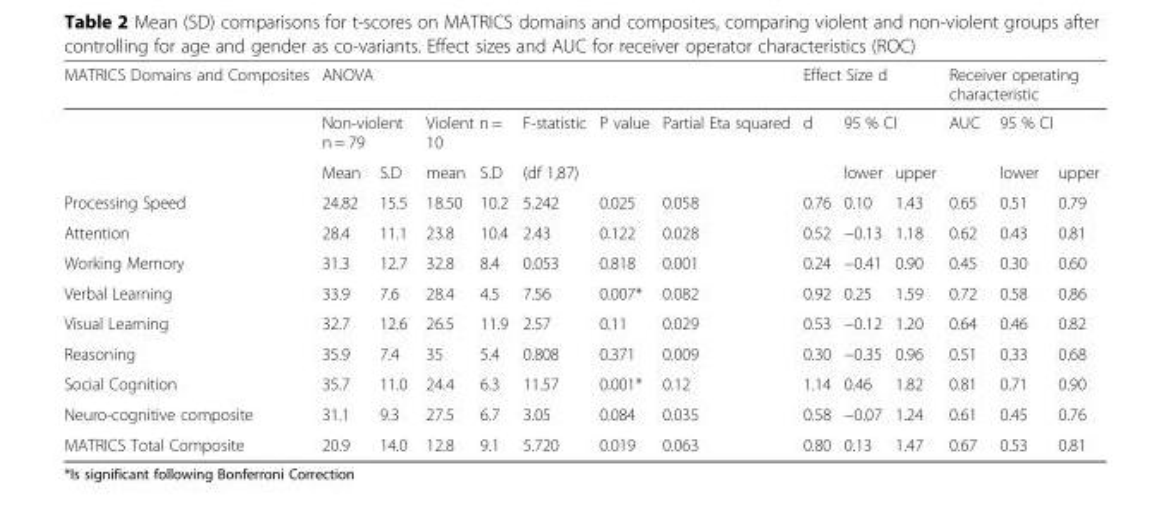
<table><thead><tr><td rowspan="3">MATRICS Domains and Composites</td><td colspan="7">ANOVA</td><td colspan="3">Effect Size d</td><td colspan="3">Receiver operating characteristic</td></tr><tr><td colspan="2">Non-violent n = 79</td><td colspan="2">Violent n = 10</td><td rowspan="2">F-statistic (df 1,87)</td><td rowspan="2">P value</td><td rowspan="2">Partial Eta squared</td><td rowspan="2">d</td><td colspan="2">95 % CI</td><td rowspan="2">AUC</td><td colspan="2">95 % CI</td></tr><tr><td>Mean</td><td>S.D</td><td>mean</td><td>S.D</td><td>lower</td><td>upper</td><td>lower</td><td>upper</td></tr></thead><tbody><tr><td>Processing Speed</td><td>24.82</td><td>15.5</td><td>18.50</td><td>10.2</td><td>5.242</td><td>0.025</td><td>0.058</td><td>0.76</td><td>0.10</td><td>1.43</td><td>0.65</td><td>0.51</td><td>0.79</td></tr><tr><td>Attention</td><td>28.4</td><td>11.1</td><td>23.8</td><td>10.4</td><td>2.43</td><td>0.122</td><td>0.028</td><td>0.52</td><td>−0.13</td><td>1.18</td><td>0.62</td><td>0.43</td><td>0.81</td></tr><tr><td>Working Memory</td><td>31.3</td><td>12.7</td><td>32.8</td><td>8.4</td><td>0.053</td><td>0.818</td><td>0.001</td><td>0.24</td><td>−0.41</td><td>0.90</td><td>0.45</td><td>0.30</td><td>0.60</td></tr><tr><td>Verbal Learning</td><td>33.9</td><td>7.6</td><td>28.4</td><td>4.5</td><td>7.56</td><td>0.007*</td><td>0.082</td><td>0.92</td><td>0.25</td><td>1.59</td><td>0.72</td><td>0.58</td><td>0.86</td></tr><tr><td>Visual Learning</td><td>32.7</td><td>12.6</td><td>26.5</td><td>11.9</td><td>2.57</td><td>0.11</td><td>0.029</td><td>0.53</td><td>−0.12</td><td>1.20</td><td>0.64</td><td>0.46</td><td>0.82</td></tr><tr><td>Reasoning</td><td>35.9</td><td>7.4</td><td>35</td><td>5.4</td><td>0.808</td><td>0.371</td><td>0.009</td><td>0.30</td><td>−0.35</td><td>0.96</td><td>0.51</td><td>0.33</td><td>0.68</td></tr><tr><td>Social Cognition</td><td>35.7</td><td>11.0</td><td>24.4</td><td>6.3</td><td>11.57</td><td>0.001*</td><td>0.12</td><td>1.14</td><td>0.46</td><td>1.82</td><td>0.81</td><td>0.71</td><td>0.90</td></tr><tr><td>Neuro-cognitive composite</td><td>31.1</td><td>9.3</td><td>27.5</td><td>6.7</td><td>3.05</td><td>0.084</td><td>0.035</td><td>0.58</td><td>−0.07</td><td>1.24</td><td>0.61</td><td>0.45</td><td>0.76</td></tr><tr><td>MATRICS Total Composite</td><td>20.9</td><td>14.0</td><td>12.8</td><td>9.1</td><td>5.720</td><td>0.019</td><td>0.063</td><td>0.80</td><td>0.13</td><td>1.47</td><td>0.67</td><td>0.53</td><td>0.81</td></tr></tbody></table>